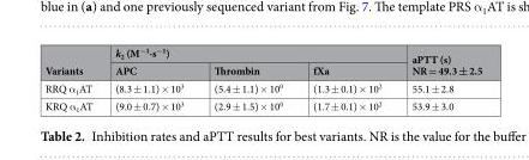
<table><thead><tr><td rowspan="2">Variants</td><td colspan="3">k<sub>2</sub> (M<sup>−1</sup>·s<sup>−1</sup>)</td><td rowspan="2">aPTT (s) NR = 49.3 ± 2.5</td></tr><tr><td>APC</td><td>Thrombin</td><td>fXa</td></tr></thead><tbody><tr><td>RRQ α<sub>1</sub>AT</td><td>(8.3 ± 1.1) × 10<sup>3</sup></td><td>(5.4 ± 1.1) × 10<sup>0</sup></td><td>(1.3 ± 0.1) × 10<sup>2</sup></td><td>55.1 ± 2.8</td></tr><tr><td>KRQ α<sub>1</sub>AT</td><td>(9.0 ± 0.7) × 10<sup>3</sup></td><td>(2.9 ± 1.5) × 10<sup>0</sup></td><td>(1.7 ± 0.1) × 10<sup>2</sup></td><td>53.9 ± 3.0</td></tr></tbody></table>